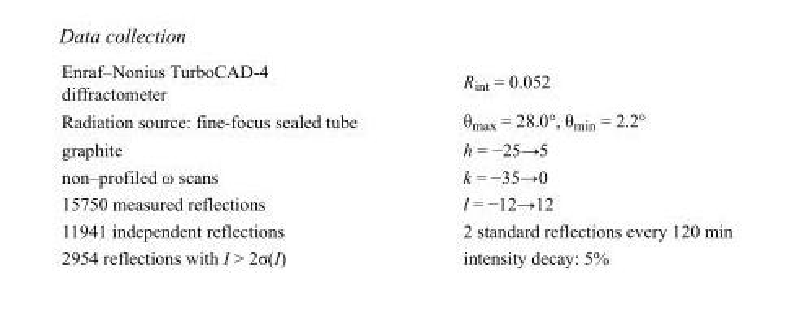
<table><tbody><tr><td>Enraf–Nonius TurboCAD-4 diffractometer</td><td>R<sub>int</sub> = 0.052</td></tr><tr><td>Radiation source: fine-focus sealed tube</td><td>θ<sub>max</sub> = 28.0°, θ<sub>min</sub> = 2.2°</td></tr><tr><td>graphite</td><td>h = −25→5</td></tr><tr><td>non–profiled ω scans</td><td>k = −35→0</td></tr><tr><td>15750 measured reflections</td><td>l = −12→12</td></tr><tr><td>11941 independent reflections</td><td>2 standard reflections every 120 min</td></tr><tr><td>2954 reflections with I &gt; 2σ(I)</td><td>intensity decay: 5%</td></tr></tbody></table>